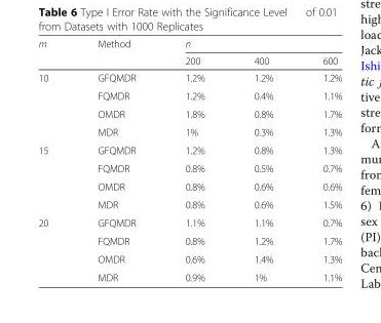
<table><thead><tr><td rowspan="2">m</td><td rowspan="2">Method</td><td colspan="3">n</td></tr><tr><td>200</td><td>400</td><td>600</td></tr></thead><tbody><tr><td rowspan="4">10</td><td>GFQMDR</td><td>1.2%</td><td>1.2%</td><td>1.2%</td></tr><tr><td>FQMDR</td><td>1.2%</td><td>0.4%</td><td>1.1%</td></tr><tr><td>OMDR</td><td>1.8%</td><td>0.8%</td><td>1.7%</td></tr><tr><td>MDR</td><td>1%</td><td>0.3%</td><td>1.3%</td></tr><tr><td rowspan="4">15</td><td>GFQMDR</td><td>1.2%</td><td>0.8%</td><td>1.3%</td></tr><tr><td>FQMDR</td><td>0.8%</td><td>0.5%</td><td>0.7%</td></tr><tr><td>OMDR</td><td>0.8%</td><td>0.6%</td><td>0.6%</td></tr><tr><td>MDR</td><td>0.8%</td><td>0.6%</td><td>1.5%</td></tr><tr><td rowspan="4">20</td><td>GFQMDR</td><td>1.1%</td><td>1.1%</td><td>0.7%</td></tr><tr><td>FQMDR</td><td>0.8%</td><td>1.2%</td><td>1.7%</td></tr><tr><td>OMDR</td><td>0.6%</td><td>1.4%</td><td>1.3%</td></tr><tr><td>MDR</td><td>0.9%</td><td>1%</td><td>1.1%</td></tr></tbody></table>